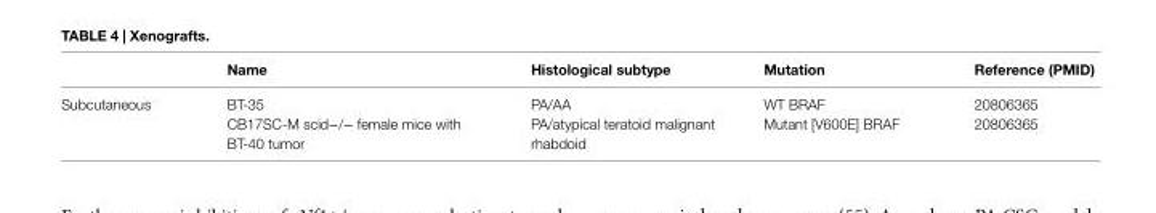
<table><thead><tr><td></td><td>Name</td><td>Histological subtype</td><td>Mutation</td><td>Reference (PMiD)</td></tr></thead><tbody><tr><td rowspan="2">Subcutaneous</td><td>BT-35</td><td>PA/AA</td><td>WT BRAF</td><td>20806365</td></tr><tr><td>CB17SC-M scid−/− female mice with BT-40 tumor</td><td>PA/atypical teratoid malignant rhabdoid</td><td>Mutant [V600E] BRAF</td><td>20806365</td></tr></tbody></table>